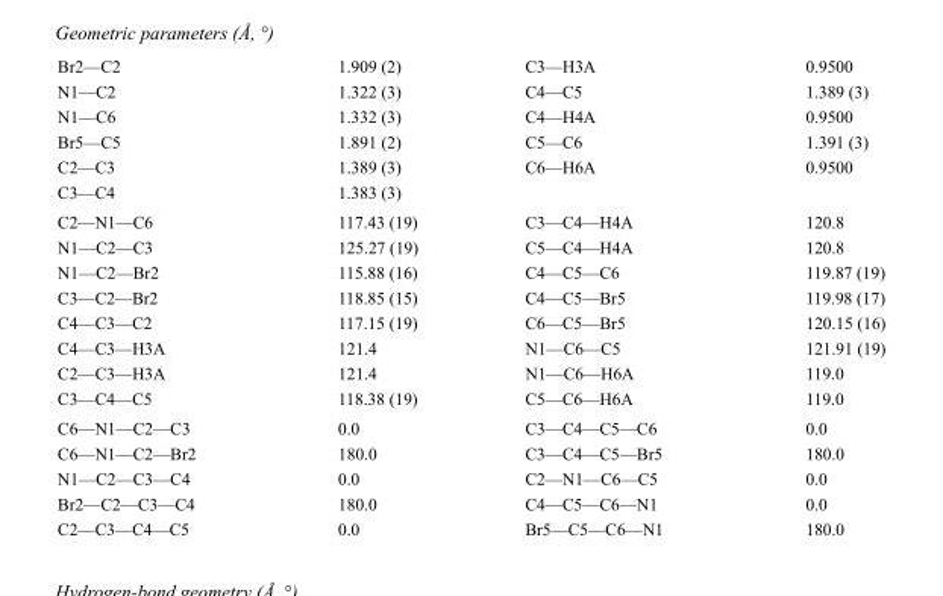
<table><tbody><tr><td>Br2—C2</td><td>1.909 (2)</td><td>C3—H3A</td><td>0.9500</td></tr><tr><td>N1—C2</td><td>1.322 (3)</td><td>C4—C5</td><td>1.389 (3)</td></tr><tr><td>N1—C6</td><td>1.332 (3)</td><td>C4—H4A</td><td>0.9500</td></tr><tr><td>Br5—C5</td><td>1.891 (2)</td><td>C5—C6</td><td>1.391 (3)</td></tr><tr><td>C2—C3</td><td>1.389 (3)</td><td>C6—H6A</td><td>0.9500</td></tr><tr><td>C3—C4</td><td>1.383 (3)</td><td></td><td></td></tr><tr><td>C2—N1—C6</td><td>117.43 (19)</td><td>C3—C4—H4A</td><td>120.8</td></tr><tr><td>N1—C2—C3</td><td>125.27 (19)</td><td>C5—C4—H4A</td><td>120.8</td></tr><tr><td>N1—C2—Br2</td><td>115.88 (16)</td><td>C4—C5—C6</td><td>119.87 (19)</td></tr><tr><td>C3—C2—Br2</td><td>118.85 (15)</td><td>C4—C5—Br5</td><td>119.98 (17)</td></tr><tr><td>C4—C3—C2</td><td>117.15 (19)</td><td>C6—C5—Br5</td><td>120.15 (16)</td></tr><tr><td>C4—C3—H3A</td><td>121.4</td><td>N1—C6—C5</td><td>121.91 (19)</td></tr><tr><td>C2—C3—H3A</td><td>121.4</td><td>N1—C6—H6A</td><td>119.0</td></tr><tr><td>C3—C4—C5</td><td>118.38 (19)</td><td>C5—C6—H6A</td><td>119.0</td></tr><tr><td>C6—N1—C2—C3</td><td>0.0</td><td>C3—C4—C5—C6</td><td>0.0</td></tr><tr><td>C6—N1—C2—Br2</td><td>180.0</td><td>C3—C4—C5—Br5</td><td>180.0</td></tr><tr><td>N1—C2—C3—C4</td><td>0.0</td><td>C2—N1—C6—C5</td><td>0.0</td></tr><tr><td>Br2—C2—C3—C4</td><td>180.0</td><td>C4—C5—C6—N1</td><td>0.0</td></tr><tr><td>C2—C3—C4—C5</td><td>0.0</td><td>Br5—C5—C6—N1</td><td>180.0</td></tr></tbody></table>